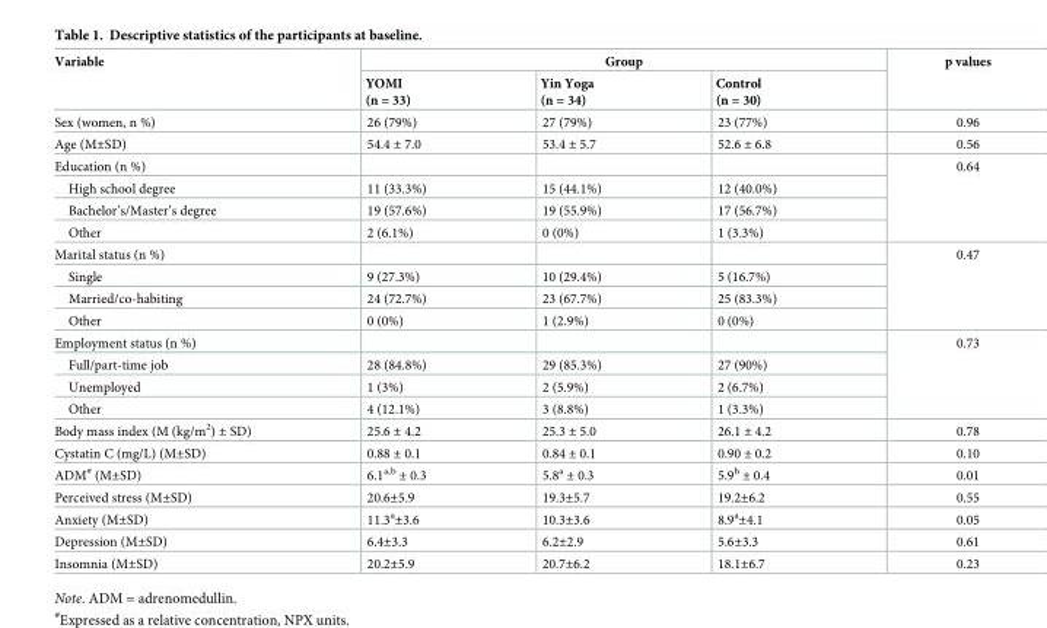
<table><thead><tr><td rowspan="2">Variable</td><td colspan="3">Group</td><td rowspan="2">p values</td></tr><tr><td>YOMI (n = 33)</td><td>Yin Yoga (n = 34)</td><td>Control (n = 30)</td></tr></thead><tbody><tr><td>Sex (women, n %)</td><td>26 (79%)</td><td>27 (79%)</td><td>23 (77%)</td><td>0.96</td></tr><tr><td>Age (M±SD)</td><td>54.4 ± 7.0</td><td>53.4 ± 5.7</td><td>52.6 ± 6.8</td><td>0.56</td></tr><tr><td colspan="4">Education (n %)</td><td rowspan="4">0.64</td></tr><tr><td>High school degree</td><td>11 (33.3%)</td><td>15 (44.1%)</td><td>12 (40.0%)</td></tr><tr><td>Bachelor’s/Master’s degree</td><td>19 (57.6%)</td><td>19 (55.9%)</td><td>17 (56.7%)</td></tr><tr><td>Other</td><td>2 (6.1%)</td><td>0 (0%)</td><td>1 (3.3%)</td></tr><tr><td colspan="4">Marital status (n %)</td><td rowspan="4">0.47</td></tr><tr><td>Single</td><td>9 (27.3%)</td><td>10 (29.4%)</td><td>5 (16.7%)</td></tr><tr><td>Married/co-habiting</td><td>24 (72.7%)</td><td>23 (67.7%)</td><td>25 (83.3%)</td></tr><tr><td>Other</td><td>0 (0%)</td><td>1 (2.9%)</td><td>0 (0%)</td></tr><tr><td colspan="4">Employment status (n %)</td><td rowspan="4">0.73</td></tr><tr><td>Full/part-time job</td><td>28 (84.8%)</td><td>29 (85.3%)</td><td>27 (90%)</td></tr><tr><td>Unemployed</td><td>1 (3%)</td><td>2 (5.9%)</td><td>2 (6.7%)</td></tr><tr><td>Other</td><td>4 (12.1%)</td><td>3 (8.8%)</td><td>1 (3.3%)</td></tr><tr><td>Body mass index (M (kg/m<sup>2</sup>) ± SD)</td><td>25.6 ± 4.2</td><td>25.3 ± 5.0</td><td>26.1 ± 4.2</td><td>0.78</td></tr><tr><td>Cystatin C (mg/L) (M±SD)</td><td>0.88 ± 0.1</td><td>0.84 ± 0.1</td><td>0.90 ± 0.2</td><td>0.10</td></tr><tr><td>ADM<sup>#</sup> (M±SD)</td><td>6.1<sup>a,b</sup> ± 0.3</td><td>5.8<sup>a</sup> ± 0.3</td><td>5.9<sup>b</sup> ± 0.4</td><td>0.01</td></tr><tr><td>Perceived stress (M±SD)</td><td>20.6±5.9</td><td>19.3±5.7</td><td>19.2±6.2</td><td>0.55</td></tr><tr><td>Anxiety (M±SD)</td><td>11.3<sup>a</sup>±3.6</td><td>10.3±3.6</td><td>8.9<sup>a</sup>±4.1</td><td>0.05</td></tr><tr><td>Depression (M±SD)</td><td>6.4±3.3</td><td>6.2±2.9</td><td>5.6±3.3</td><td>0.61</td></tr><tr><td>Insomnia (M±SD)</td><td>20.2±5.9</td><td>20.7±6.2</td><td>18.1±6.7</td><td>0.23</td></tr></tbody></table>